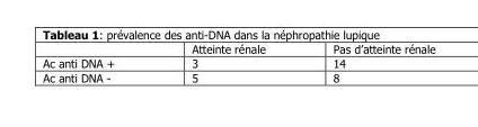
<table><thead><tr><td></td><td>Atteinte rénale</td><td>Pas d’atteinte rénale</td></tr></thead><tbody><tr><td>Ac anti DNA +</td><td>3</td><td>14</td></tr><tr><td>Ac anti DNA -</td><td>5</td><td>8</td></tr></tbody></table>